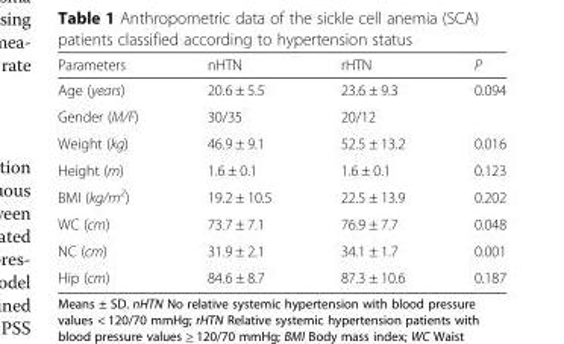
<table><thead><tr><td>Parameters</td><td>nHTN</td><td>rHTN</td><td>P</td></tr></thead><tbody><tr><td>Age (years)</td><td>20.6 ± 5.5</td><td>23.6 ± 9.3</td><td>0.094</td></tr><tr><td>Gender (M/F)</td><td>30/35</td><td>20/12</td><td></td></tr><tr><td>Weight (kg)</td><td>46.9 ± 9.1</td><td>52.5 ± 13.2</td><td>0.016</td></tr><tr><td>Height (m)</td><td>1.6 ± 0.1</td><td>1.6 ± 0.1</td><td>0.123</td></tr><tr><td>BMI (kg/m<sup>2</sup>)</td><td>19.2 ± 10.5</td><td>22.5 ± 13.9</td><td>0.202</td></tr><tr><td>WC (cm)</td><td>73.7 ± 7.1</td><td>76.9 ± 7.7</td><td>0.048</td></tr><tr><td>NC (cm)</td><td>31.9 ± 2.1</td><td>34.1 ± 1.7</td><td>0.001</td></tr><tr><td>Hip (cm)</td><td>84.6 ± 8.7</td><td>87.3 ± 10.6</td><td>0.187</td></tr></tbody></table>